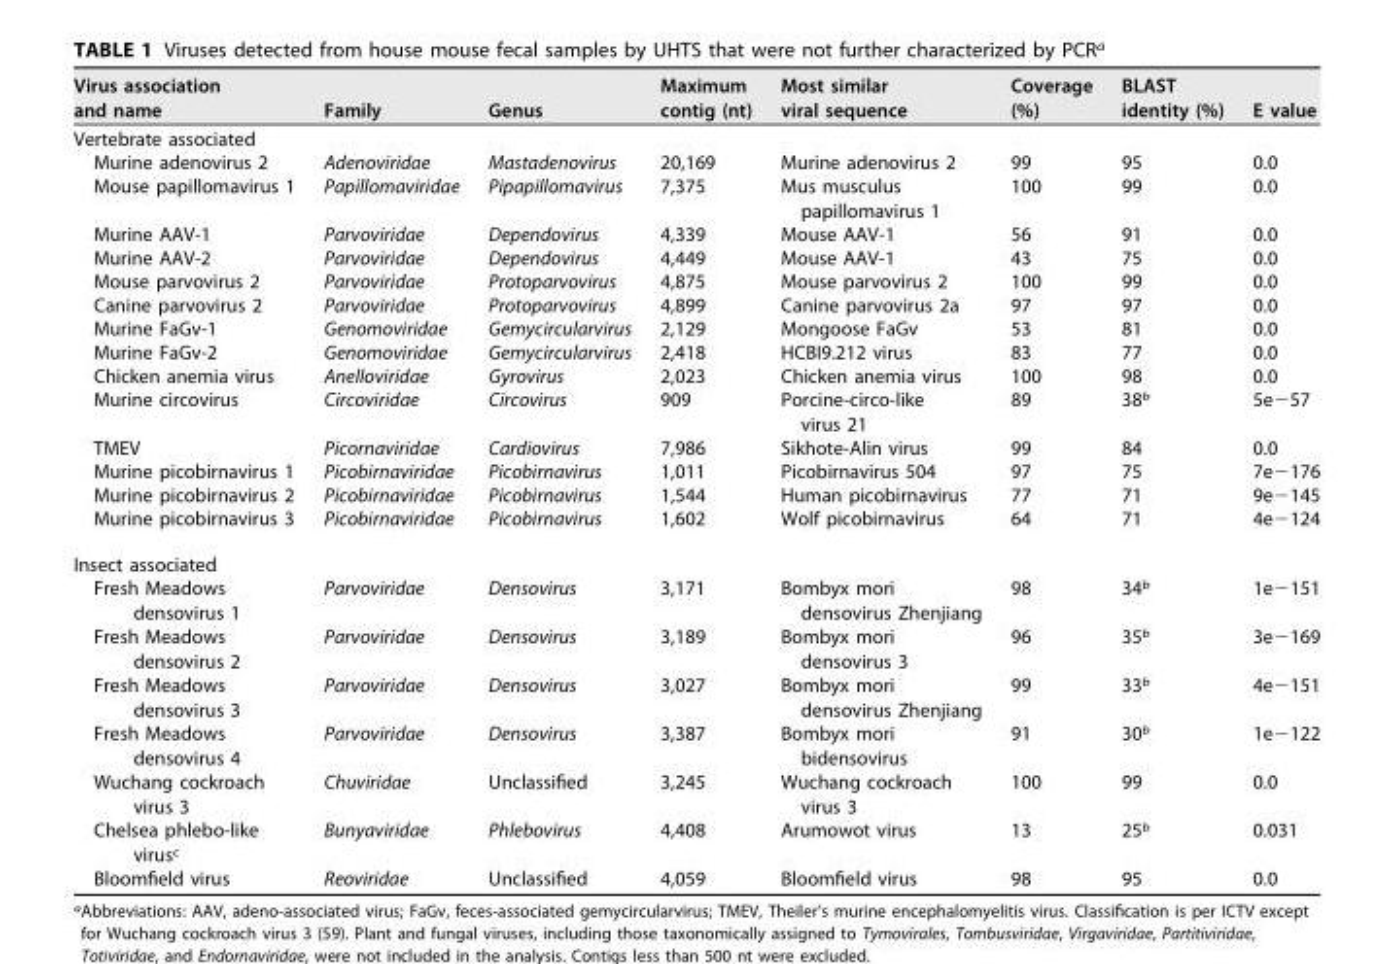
<table><thead><tr><td>Virus association and name</td><td>Family</td><td>Genus</td><td>Maximum contig (nt)</td><td>Most similar viral sequence</td><td>Coverage (%)</td><td>BLAST identity (%)</td><td>E value</td></tr></thead><tbody><tr><td colspan="8">Vertebrate associated</td></tr><tr><td>Murine adenovirus 2</td><td>Adenoviridae</td><td>Mastadenovirus</td><td>20,169</td><td>Murine adenovirus 2</td><td>99</td><td>95</td><td>0.0</td></tr><tr><td>Mouse papillomavirus 1</td><td>Papillomaviridae</td><td>Pipapillomavirus</td><td>7,375</td><td>Mus musculus papillomavirus 1</td><td>100</td><td>99</td><td>0.0</td></tr><tr><td>Murine AAV-1</td><td>Parvoviridae</td><td>Dependovirus</td><td>4,339</td><td>Mouse AAV-1</td><td>56</td><td>91</td><td>0.0</td></tr><tr><td>Murine AAV-2</td><td>Parvoviridae</td><td>Dependovirus</td><td>4,449</td><td>Mouse AAV-1</td><td>43</td><td>75</td><td>0.0</td></tr><tr><td>Mouse parvovirus 2</td><td>Parvoviridae</td><td>Protoparvovirus</td><td>4,875</td><td>Mouse parvovirus 2</td><td>100</td><td>99</td><td>0.0</td></tr><tr><td>Canine parvovirus 2</td><td>Parvoviridae</td><td>Protoparvovirus</td><td>4,899</td><td>Canine parvovirus 2a</td><td>97</td><td>97</td><td>0.0</td></tr><tr><td>Murine FaGv-1</td><td>Genomoviridae</td><td>Gemycircularvirus</td><td>2,129</td><td>Mongoose FaGv</td><td>53</td><td>81</td><td>0.0</td></tr><tr><td>Murine FaGv-2</td><td>Genomoviridae</td><td>Gemycircularvirus</td><td>2,418</td><td>HCBI9.212 virus</td><td>83</td><td>77</td><td>0.0</td></tr><tr><td>Chicken anemia virus</td><td>Anelloviridae</td><td>Gyrovirus</td><td>2,023</td><td>Chicken anemia virus</td><td>100</td><td>98</td><td>0.0</td></tr><tr><td>Murine circovirus</td><td>Circoviridae</td><td>Circovirus</td><td>909</td><td>Porcine-circo-like virus 21</td><td>89</td><td>38<sup>b</sup></td><td>5e−57</td></tr><tr><td>TMEV</td><td>Picornaviridae</td><td>Cardiovirus</td><td>7,986</td><td>Sikhote-Alin virus</td><td>99</td><td>84</td><td>0.0</td></tr><tr><td>Murine picobirnavirus 1</td><td>Picobirnaviridae</td><td>Picobirnavirus</td><td>1,011</td><td>Picobirnavirus 504</td><td>97</td><td>75</td><td>7e−176</td></tr><tr><td>Murine picobirnavirus 2</td><td>Picobirnaviridae</td><td>Picobirnavirus</td><td>1,544</td><td>Human picobirnavirus</td><td>77</td><td>71</td><td>9e−145</td></tr><tr><td>Murine picobirnavirus 3</td><td>Picobirnaviridae</td><td>Picobirnavirus</td><td>1,602</td><td>Wolf picobirnavirus</td><td>64</td><td>71</td><td>4e−124</td></tr><tr><td colspan="8">Insect associated</td></tr><tr><td>Fresh Meadows densovirus 1</td><td>Parvoviridae</td><td>Densovirus</td><td>3,171</td><td>Bombyx mori densovirus Zhenjiang</td><td>98</td><td>34<sup>b</sup></td><td>1e−151</td></tr><tr><td>Fresh Meadows densovirus 2</td><td>Parvoviridae</td><td>Densovirus</td><td>3,189</td><td>Bombyx mori densovirus 3</td><td>96</td><td>35<sup>b</sup></td><td>3e−169</td></tr><tr><td>Fresh Meadows densovirus 3</td><td>Parvoviridae</td><td>Densovirus</td><td>3,027</td><td>Bombyx mori densovirus Zhenjiang</td><td>99</td><td>33<sup>b</sup></td><td>4e−151</td></tr><tr><td>Fresh Meadows densovirus 4</td><td>Parvoviridae</td><td>Densovirus</td><td>3,387</td><td>Bombyx mori bidensovirus</td><td>91</td><td>30<sup>b</sup></td><td>1e−122</td></tr><tr><td>Wuchang cockroach virus 3</td><td>Chuviridae</td><td>Unclassified</td><td>3,245</td><td>Wuchang cockroach virus 3</td><td>100</td><td>99</td><td>0.0</td></tr><tr><td>Chelsea phlebo-like virus<sup>c</sup></td><td>Bunyaviridae</td><td>Phlebovirus</td><td>4,408</td><td>Arumowot virus</td><td>13</td><td>25<sup>b</sup></td><td>0.031</td></tr><tr><td>Bloomfield virus</td><td>Reoviridae</td><td>Unclassified</td><td>4,059</td><td>Bloomfield virus</td><td>98</td><td>95</td><td>0.0</td></tr></tbody></table>